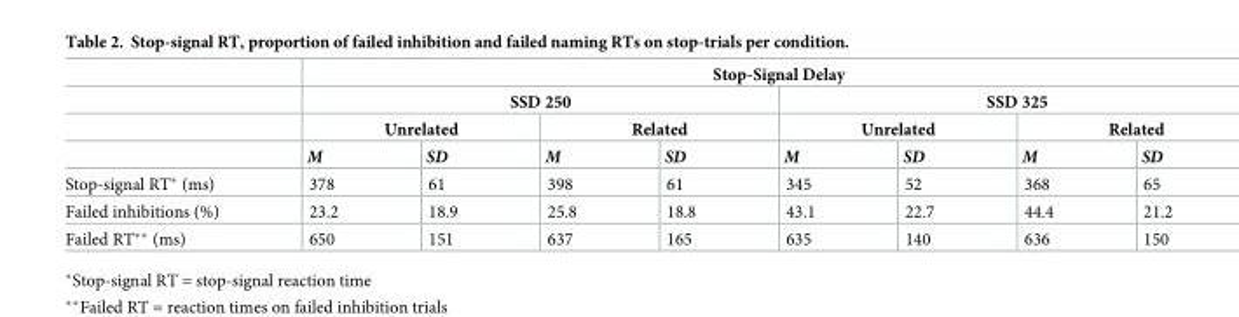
<table><thead><tr><td rowspan="4"></td><td colspan="8">Stop-Signal Delay</td></tr><tr><td colspan="4">SSD 250</td><td colspan="4">SSD 325</td></tr><tr><td colspan="2">Unrelated</td><td colspan="2">Related</td><td colspan="2">Unrelated</td><td colspan="2">Related</td></tr><tr><td>M</td><td>SD</td><td>M</td><td>SD</td><td>M</td><td>SD</td><td>M</td><td>SD</td></tr></thead><tbody><tr><td>Stop-signal RT* (ms)</td><td>378</td><td>61</td><td>398</td><td>61</td><td>345</td><td>52</td><td>368</td><td>65</td></tr><tr><td>Failed inhibitions (%)</td><td>23.2</td><td>18.9</td><td>25.8</td><td>18.8</td><td>43.1</td><td>22.7</td><td>44.4</td><td>21.2</td></tr><tr><td>Failed RT** (ms)</td><td>650</td><td>151</td><td>637</td><td>165</td><td>635</td><td>140</td><td>636</td><td>150</td></tr></tbody></table>